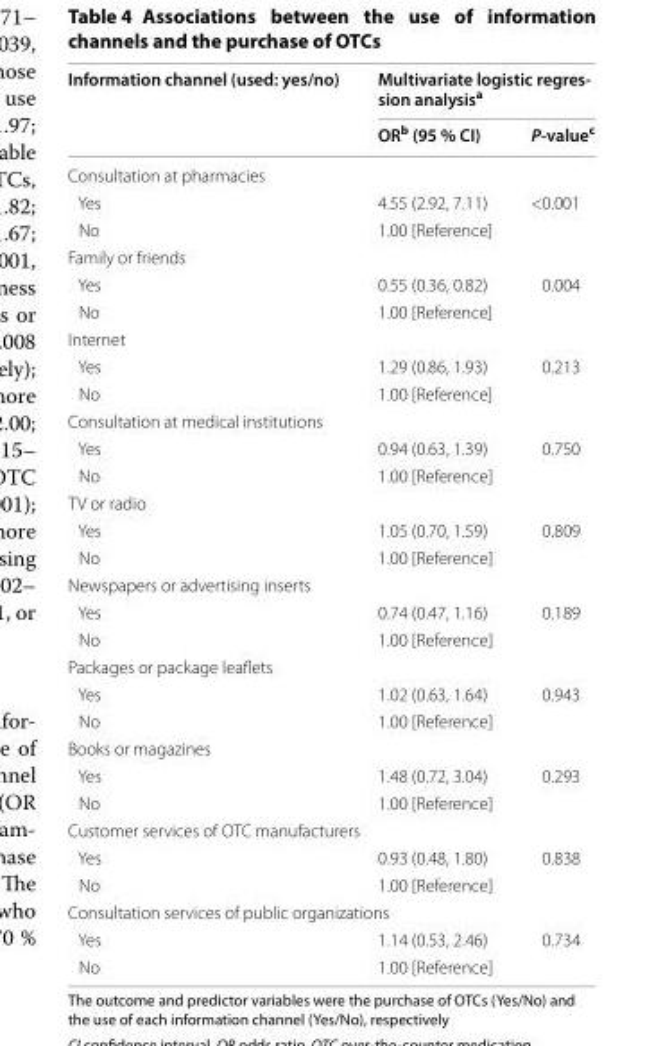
<table><thead><tr><td rowspan="2">Information channel (used: yes/no)</td><td colspan="2">Multivariate logistic regres‑ sion analysisa</td></tr><tr><td>OR<sup>b</sup> (95 % CI)</td><td>P‑value<sup>c</sup></td></tr></thead><tbody><tr><td colspan="3">Consultation at pharmacies</td></tr><tr><td>Yes</td><td>4.55 (2.92, 7.11)</td><td>&lt;0.001</td></tr><tr><td>No</td><td>1.00 [Reference]</td><td></td></tr><tr><td colspan="3">Family or friends</td></tr><tr><td>Yes</td><td>0.55 (0.36, 0.82)</td><td>0.004</td></tr><tr><td>No</td><td>1.00 [Reference]</td><td></td></tr><tr><td colspan="3">Internet</td></tr><tr><td>Yes</td><td>1.29 (0.86, 1.93)</td><td>0.213</td></tr><tr><td>No</td><td>1.00 [Reference]</td><td></td></tr><tr><td colspan="3">Consultation at medical institutions</td></tr><tr><td>Yes</td><td>0.94 (0.63, 1.39)</td><td>0.750</td></tr><tr><td>No</td><td>1.00 [Reference]</td><td></td></tr><tr><td colspan="3">TV or radio</td></tr><tr><td>Yes</td><td>1.05 (0.70, 1.59)</td><td>0.809</td></tr><tr><td>No</td><td>1.00 [Reference]</td><td></td></tr><tr><td colspan="3">Newspapers or advertising inserts</td></tr><tr><td>Yes</td><td>0.74 (0.47, 1.16)</td><td>0.189</td></tr><tr><td>No</td><td>1.00 [Reference]</td><td></td></tr><tr><td colspan="3">Packages or package leaflets</td></tr><tr><td>Yes</td><td>1.02 (0.63, 1.64)</td><td>0.943</td></tr><tr><td>No</td><td>1.00 [Reference]</td><td></td></tr><tr><td colspan="3">Books or magazines</td></tr><tr><td>Yes</td><td>1.48 (0.72, 3.04)</td><td>0.293</td></tr><tr><td>No</td><td>1.00 [Reference]</td><td></td></tr><tr><td colspan="3">Customer services of OTC manufacturers</td></tr><tr><td>Yes</td><td>0.93 (0.48, 1.80)</td><td>0.838</td></tr><tr><td>No</td><td>1.00 [Reference]</td><td></td></tr><tr><td colspan="3">Consultation services of public organizations</td></tr><tr><td>Yes</td><td>1.14 (0.53, 2.46)</td><td>0.734</td></tr><tr><td>No</td><td>1.00 [Reference]</td><td></td></tr></tbody></table>